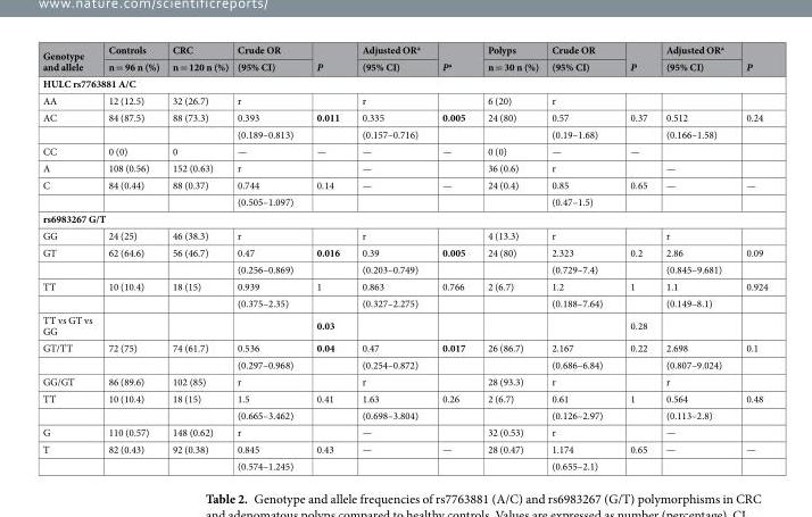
<table><thead><tr><td rowspan="2">Genotype and allele</td><td rowspan="2">Controls n = 96 n (%)</td><td rowspan="2">CRC n = 120 n (%)</td><td rowspan="2">Crude OR (95% CI)</td><td rowspan="2">P</td><td rowspan="2">Adjusted OR<sup>a</sup> (95% CI)</td><td rowspan="2">P<sup>a</sup></td><td rowspan="2">Polyps n = 30 n (%)</td><td rowspan="2">Crude OR (95% CI)</td><td rowspan="2">P</td><td rowspan="2">Adjusted OR<sup>a</sup> (95% CI)</td><td rowspan="2">P</td></tr><tr></tr></thead><tbody><tr><td colspan="12">HULC rs7763881 A/C</td></tr><tr><td>AA</td><td>12 (12.5)</td><td>32 (26.7)</td><td>r</td><td></td><td>r</td><td></td><td>6 (20)</td><td>r</td><td></td><td></td><td></td></tr><tr><td rowspan="2">AC</td><td>84 (87.5)</td><td>88 (73.3)</td><td>0.393</td><td>0.011</td><td>0.335</td><td>0.005</td><td>24 (80)</td><td>0.57</td><td>0.37</td><td>0.512</td><td>0.24</td></tr><tr><td></td><td></td><td>(0.189–0.813)</td><td></td><td>(0.157–0.716)</td><td></td><td></td><td>(0.19–1.68)</td><td></td><td>(0.166–1.58)</td><td></td></tr><tr><td>CC</td><td>0 (0)</td><td>0</td><td>—</td><td>—</td><td>—</td><td>—</td><td>0 (0)</td><td>—</td><td>—</td><td></td><td></td></tr><tr><td>A</td><td>108 (0.56)</td><td>152 (0.63)</td><td>r</td><td></td><td>—</td><td></td><td>36 (0.6)</td><td>r</td><td></td><td>—</td><td></td></tr><tr><td rowspan="2">C</td><td>84 (0.44)</td><td>88 (0.37)</td><td>0.744</td><td>0.14</td><td>—</td><td>—</td><td>24 (0.4)</td><td>0.85</td><td>0.65</td><td>—</td><td>—</td></tr><tr><td></td><td></td><td>(0.505–1.097)</td><td></td><td></td><td></td><td></td><td>(0.47–1.5)</td><td></td><td></td><td></td></tr><tr><td colspan="12">rs6983267 G/T</td></tr><tr><td>GG</td><td>24 (25)</td><td>46 (38.3)</td><td>r</td><td></td><td>r</td><td></td><td>4 (13.3)</td><td>r</td><td></td><td>r</td><td></td></tr><tr><td rowspan="2">GT</td><td>62 (64.6)</td><td>56 (46.7)</td><td>0.47</td><td>0.016</td><td>0.39</td><td>0.005</td><td>24 (80)</td><td>2.323</td><td>0.2</td><td>2.86</td><td>0.09</td></tr><tr><td></td><td></td><td>(0.256–0.869)</td><td></td><td>(0.203–0.749)</td><td></td><td></td><td>(0.729–7.4)</td><td></td><td>(0.845–9.681)</td><td></td></tr><tr><td rowspan="2">TT</td><td>10 (10.4)</td><td>18 (15)</td><td>0.939</td><td>1</td><td>0.863</td><td>0.766</td><td>2 (6.7)</td><td>1.2</td><td>1</td><td>1.1</td><td>0.924</td></tr><tr><td></td><td></td><td>(0.375–2.35)</td><td></td><td>(0.327–2.275)</td><td></td><td></td><td>(0.188–7.64)</td><td></td><td>(0.149–8.1)</td><td></td></tr><tr><td>TT vs GT vs GG</td><td></td><td></td><td></td><td>0.03</td><td></td><td></td><td></td><td></td><td>0.28</td><td></td><td></td></tr><tr><td rowspan="2">GT/TT</td><td>72 (75)</td><td>74 (61.7)</td><td>0.536</td><td>0.04</td><td>0.47</td><td>0.017</td><td>26 (86.7)</td><td>2.167</td><td>0.22</td><td>2.698</td><td>0.1</td></tr><tr><td></td><td></td><td>(0.297–0.968)</td><td></td><td>(0.254–0.872)</td><td></td><td></td><td>(0.686–6.84)</td><td></td><td>(0.807–9.024)</td><td></td></tr><tr><td>GG/GT</td><td>86 (89.6)</td><td>102 (85)</td><td>r</td><td></td><td>r</td><td></td><td>28 (93.3)</td><td>r</td><td></td><td>r</td><td></td></tr><tr><td rowspan="2">TT</td><td>10 (10.4)</td><td>18 (15)</td><td>1.5</td><td>0.41</td><td>1.63</td><td>0.26</td><td>2 (6.7)</td><td>0.61</td><td>1</td><td>0.564</td><td>0.48</td></tr><tr><td></td><td></td><td>(0.665–3.462)</td><td></td><td>(0.698–3.804)</td><td></td><td></td><td>(0.126–2.97)</td><td></td><td>(0.113–2.8)</td><td></td></tr><tr><td>G</td><td>110 (0.57)</td><td>148 (0.62)</td><td>r</td><td></td><td>—</td><td></td><td>32 (0.53)</td><td>r</td><td></td><td>—</td><td></td></tr><tr><td rowspan="2">T</td><td>82 (0.43)</td><td>92 (0.38)</td><td>0.845</td><td>0.43</td><td>—</td><td>—</td><td>28 (0.47)</td><td>1.174</td><td>0.65</td><td>—</td><td>—</td></tr><tr><td></td><td></td><td>(0.574–1.245)</td><td></td><td></td><td></td><td></td><td>(0.655–2.1)</td><td></td><td></td><td></td></tr></tbody></table>